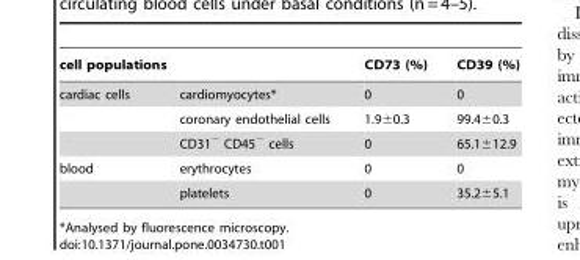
<table><thead><tr><td colspan="2">cell populations</td><td rowspan="2">CD73 (%) 0</td><td rowspan="2">CD39 (%) 0</td></tr><tr><td>cardiac cells</td><td>cardiomyocytes*</td></tr></thead><tbody><tr><td></td><td>coronary endothelial cells</td><td>1.9±0.3</td><td>99.4±0.3</td></tr><tr><td></td><td>CD31<sup>−</sup> CD45<sup>−</sup> cells</td><td>0</td><td>65.1±12.9</td></tr><tr><td rowspan="2">blood</td><td>erythrocytes</td><td>0</td><td>0</td></tr><tr><td>platelets</td><td>0</td><td>35.2±5.1</td></tr></tbody></table>